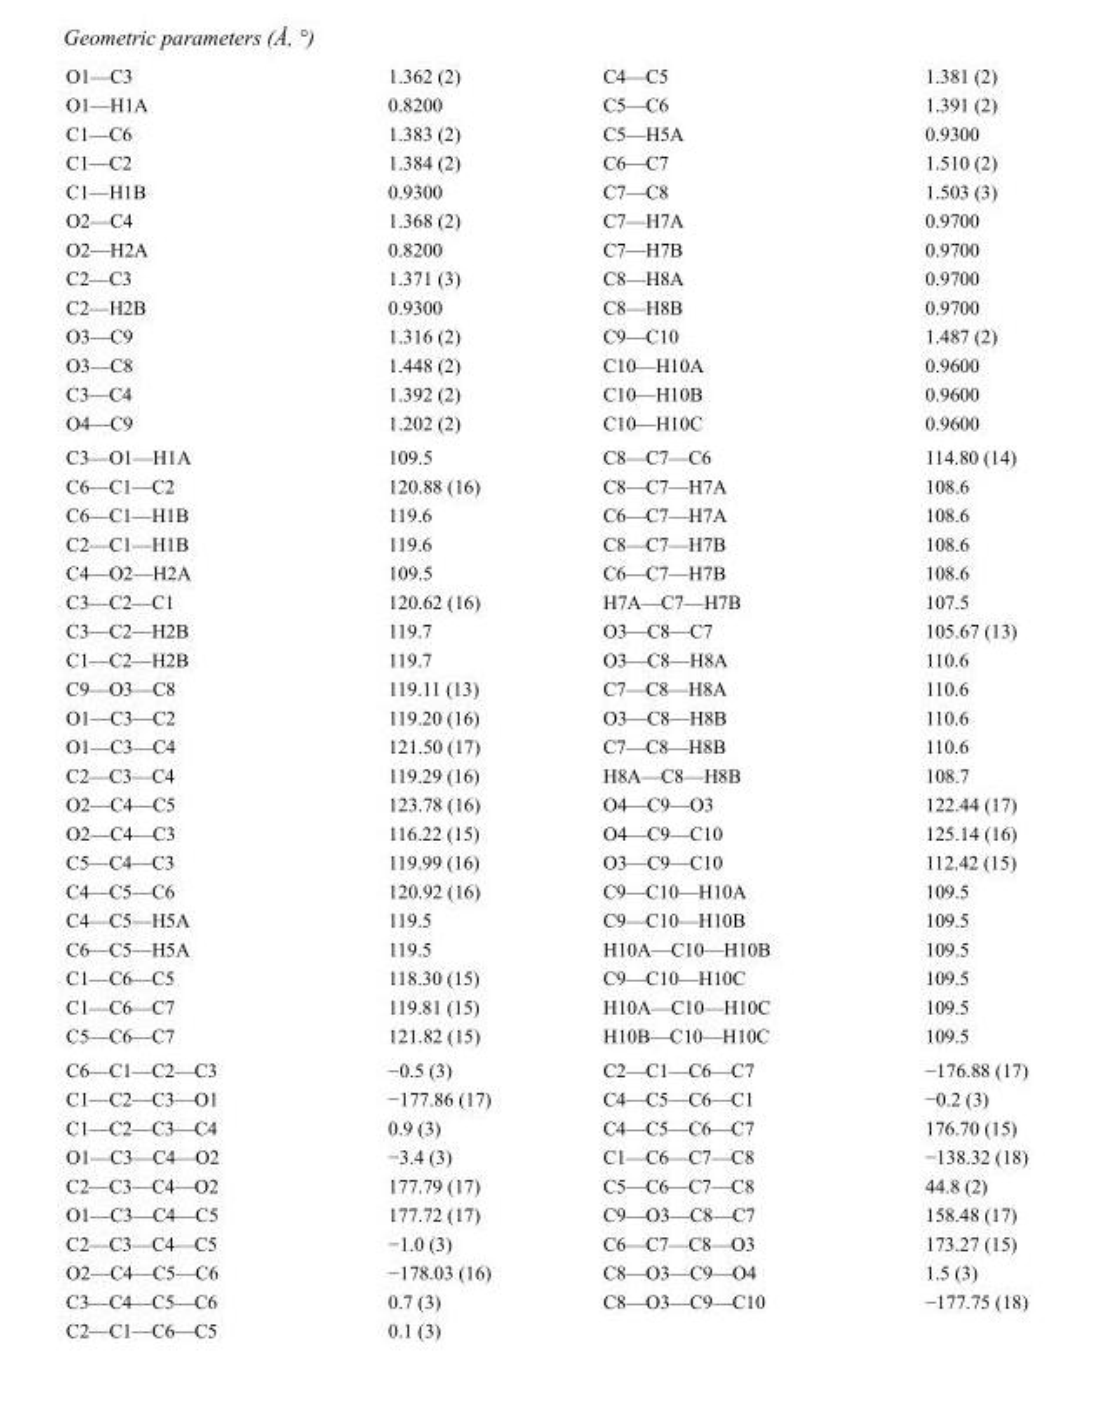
<table><tbody><tr><td>O1—C3</td><td>1.362 (2)</td><td>C4—C5</td><td>1.381 (2)</td></tr><tr><td>O1—H1A</td><td>0.8200</td><td>C5—C6</td><td>1.391 (2)</td></tr><tr><td>C1—C6</td><td>1.383 (2)</td><td>C5—H5A</td><td>0.9300</td></tr><tr><td>C1—C2</td><td>1.384 (2)</td><td>C6—C7</td><td>1.510 (2)</td></tr><tr><td>C1—H1B</td><td>0.9300</td><td>C7—C8</td><td>1.503 (3)</td></tr><tr><td>O2—C4</td><td>1.368 (2)</td><td>C7—H7A</td><td>0.9700</td></tr><tr><td>O2—H2A</td><td>0.8200</td><td>C7—H7B</td><td>0.9700</td></tr><tr><td>C2—C3</td><td>1.371 (3)</td><td>C8—H8A</td><td>0.9700</td></tr><tr><td>C2—H2B</td><td>0.9300</td><td>C8—H8B</td><td>0.9700</td></tr><tr><td>O3—C9</td><td>1.316 (2)</td><td>C9—C10</td><td>1.487 (2)</td></tr><tr><td>O3—C8</td><td>1.448 (2)</td><td>C10—H10A</td><td>0.9600</td></tr><tr><td>C3—C4</td><td>1.392 (2)</td><td>C10—H10B</td><td>0.9600</td></tr><tr><td>O4—C9</td><td>1.202 (2)</td><td>C10—H10C</td><td>0.9600</td></tr><tr><td>C3—O1—H1A</td><td>109.5</td><td>C8—C7—C6</td><td>114.80 (14)</td></tr><tr><td>C6—C1—C2</td><td>120.88 (16)</td><td>C8—C7—H7A</td><td>108.6</td></tr><tr><td>C6—C1—H1B</td><td>119.6</td><td>C6—C7—H7A</td><td>108.6</td></tr><tr><td>C2—C1—H1B</td><td>119.6</td><td>C8—C7—H7B</td><td>108.6</td></tr><tr><td>C4—O2—H2A</td><td>109.5</td><td>C6—C7—H7B</td><td>108.6</td></tr><tr><td>C3—C2—C1</td><td>120.62 (16)</td><td>H7A—C7—H7B</td><td>107.5</td></tr><tr><td>C3—C2—H2B</td><td>119.7</td><td>O3—C8—C7</td><td>105.67 (13)</td></tr><tr><td>C1—C2—H2B</td><td>119.7</td><td>O3—C8—H8A</td><td>110.6</td></tr><tr><td>C9—O3—C8</td><td>119.11 (13)</td><td>C7—C8—H8A</td><td>110.6</td></tr><tr><td>O1—C3—C2</td><td>119.20 (16)</td><td>O3—C8—H8B</td><td>110.6</td></tr><tr><td>O1—C3—C4</td><td>121.50 (17)</td><td>C7—C8—H8B</td><td>110.6</td></tr><tr><td>C2—C3—C4</td><td>119.29 (16)</td><td>H8A—C8—H8B</td><td>108.7</td></tr><tr><td>O2—C4—C5</td><td>123.78 (16)</td><td>O4—C9—O3</td><td>122.44 (17)</td></tr><tr><td>O2—C4—C3</td><td>116.22 (15)</td><td>O4—C9—C10</td><td>125.14 (16)</td></tr><tr><td>C5—C4—C3</td><td>119.99 (16)</td><td>O3—C9—C10</td><td>112.42 (15)</td></tr><tr><td>C4—C5—C6</td><td>120.92 (16)</td><td>C9—C10—H10A</td><td>109.5</td></tr><tr><td>C4—C5—H5A</td><td>119.5</td><td>C9—C10—H10B</td><td>109.5</td></tr><tr><td>C6—C5—H5A</td><td>119.5</td><td>H10A—C10—H10B</td><td>109.5</td></tr><tr><td>C1—C6—C5</td><td>118.30 (15)</td><td>C9—C10—H10C</td><td>109.5</td></tr><tr><td>C1—C6—C7</td><td>119.81 (15)</td><td>H10A—C10—H10C</td><td>109.5</td></tr><tr><td>C5—C6—C7</td><td>121.82 (15)</td><td>H10B—C10—H10C</td><td>109.5</td></tr><tr><td>C6—C1—C2—C3</td><td>−0.5 (3)</td><td>C2—C1—C6—C7</td><td>−176.88 (17)</td></tr><tr><td>C1—C2—C3—O1</td><td>−177.86 (17)</td><td>C4—C5—C6—C1</td><td>−0.2 (3)</td></tr><tr><td>C1—C2—C3—C4</td><td>0.9 (3)</td><td>C4—C5—C6—C7</td><td>176.70 (15)</td></tr><tr><td>O1—C3—C4—O2</td><td>−3.4 (3)</td><td>C1—C6—C7—C8</td><td>−138.32 (18)</td></tr><tr><td>C2—C3—C4—O2</td><td>177.79 (17)</td><td>C5—C6—C7—C8</td><td>44.8 (2)</td></tr><tr><td>O1—C3—C4—C5</td><td>177.72 (17)</td><td>C9—O3—C8—C7</td><td>158.48 (17)</td></tr><tr><td>C2—C3—C4—C5</td><td>−1.0 (3)</td><td>C6—C7—C8—O3</td><td>173.27 (15)</td></tr><tr><td>O2—C4—C5—C6</td><td>−178.03 (16)</td><td>C8—O3—C9—O4</td><td>1.5 (3)</td></tr><tr><td>C3—C4—C5—C6</td><td>0.7 (3)</td><td>C8—O3—C9—C10</td><td>−177.75 (18)</td></tr><tr><td>C2—C1—C6—C5</td><td>0.1 (3)</td><td></td><td></td></tr></tbody></table>